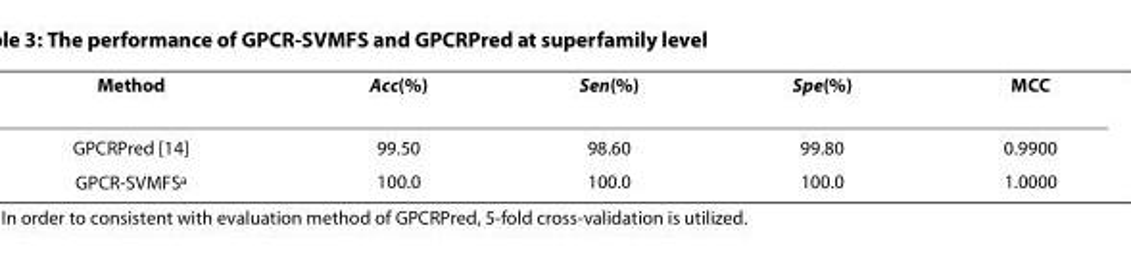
<table><thead><tr><td>Method</td><td>Acc(%)</td><td>Sen(%)</td><td>Spe(%)</td><td>MCC</td></tr></thead><tbody><tr><td>GPCRPred [14]</td><td>99.50</td><td>98.60</td><td>99.80</td><td>0.9900</td></tr><tr><td>GPCR-SVMFS<sup>a</sup></td><td>100.0</td><td>100.0</td><td>100.0</td><td>1.0000</td></tr></tbody></table>